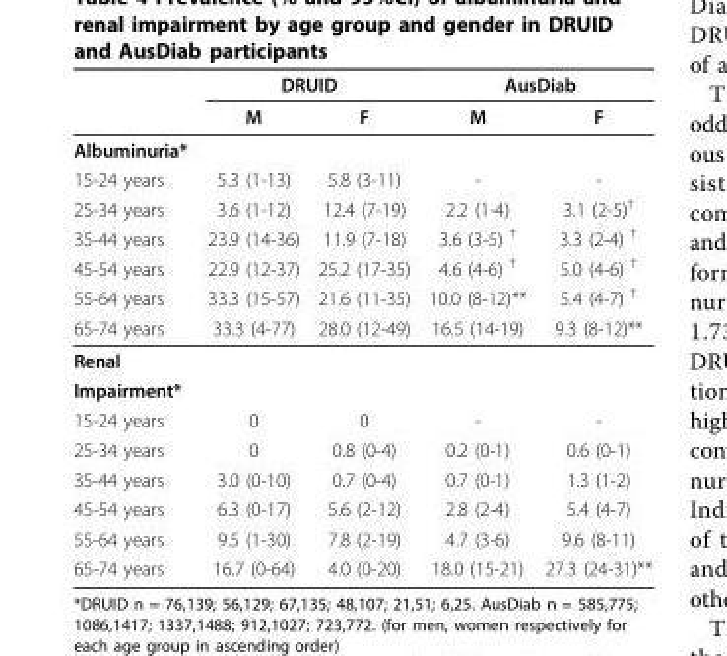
<table><thead><tr><td rowspan="2"></td><td colspan="2">DRUID</td><td colspan="2">AusDiab</td></tr><tr><td>M</td><td>F</td><td>M</td><td>F</td></tr></thead><tbody><tr><td colspan="5">Albuminuria*</td></tr><tr><td>15-24 years</td><td>5.3 (1-13)</td><td>5.8 (3-11)</td><td>-</td><td>-</td></tr><tr><td>25-34 years</td><td>3.6 (1-12)</td><td>12.4 (7-19)</td><td>2.2 (1-4)</td><td>3.1 (2-5)<sup>†</sup></td></tr><tr><td>35-44 years</td><td>23.9 (14-36)</td><td>11.9 (7-18)</td><td>3.6 (3-5) <sup>†</sup></td><td>3.3 (2-4) <sup>†</sup></td></tr><tr><td>45-54 years</td><td>22.9 (12-37)</td><td>25.2 (17-35)</td><td>4.6 (4-6) <sup>†</sup></td><td>5.0 (4-6) <sup>†</sup></td></tr><tr><td>55-64 years</td><td>33.3 (15-57)</td><td>21.6 (11-35)</td><td>10.0 (8-12)**</td><td>5.4 (4-7) <sup>†</sup></td></tr><tr><td>65-74 years</td><td>33.3 (4-77)</td><td>28.0 (12-49)</td><td>16.5 (14-19)</td><td>9.3 (8-12)**</td></tr><tr><td colspan="5">Renal</td></tr><tr><td colspan="5">Impairment*</td></tr><tr><td>15-24 years</td><td>0</td><td>0</td><td>-</td><td>-</td></tr><tr><td>25-34 years</td><td>0</td><td>0.8 (0-4)</td><td>0.2 (0-1)</td><td>0.6 (0-1)</td></tr><tr><td>35-44 years</td><td>3.0 (0-10)</td><td>0.7 (0-4)</td><td>0.7 (0-1)</td><td>1.3 (1-2)</td></tr><tr><td>45-54 years</td><td>6.3 (0-17)</td><td>5.6 (2-12)</td><td>2.8 (2-4)</td><td>5.4 (4-7)</td></tr><tr><td>55-64 years</td><td>9.5 (1-30)</td><td>7.8 (2-19)</td><td>4.7 (3-6)</td><td>9.6 (8-11)</td></tr><tr><td>65-74 years</td><td>16.7 (0-64)</td><td>4.0 (0-20)</td><td>18.0 (15-21)</td><td>27.3 (24-31)**</td></tr></tbody></table>